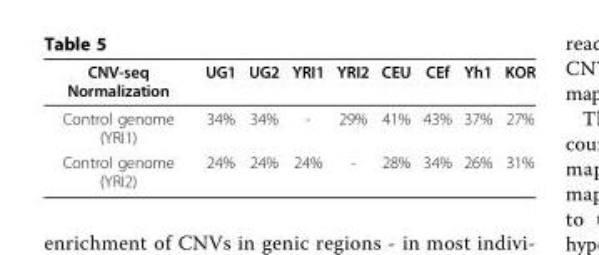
<table><thead><tr><td>CNV-seq Normalization</td><td>UG1</td><td>UG2</td><td>YRI1</td><td>YRI2</td><td>CEU</td><td>CEf</td><td>Yh1</td><td>KOR</td></tr></thead><tbody><tr><td>Control genome (YRI1)</td><td>34%</td><td>34%</td><td>-</td><td>29%</td><td>41%</td><td>43%</td><td>37%</td><td>27%</td></tr><tr><td>Control genome (YRI2)</td><td>24%</td><td>24%</td><td>24%</td><td>-</td><td>28%</td><td>34%</td><td>26%</td><td>31%</td></tr></tbody></table>